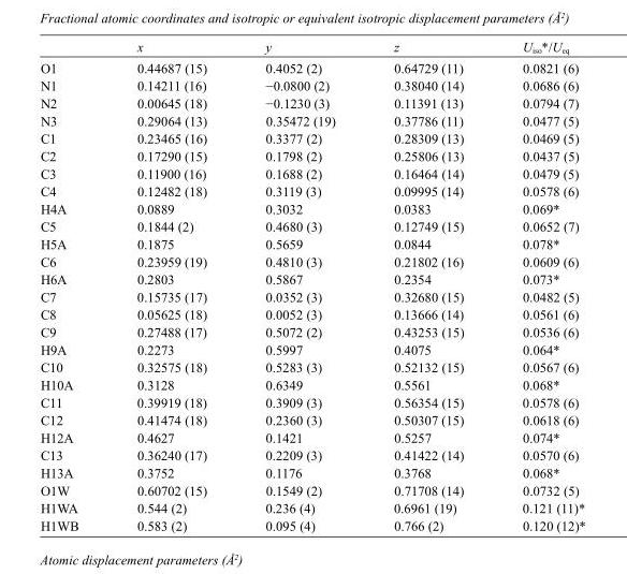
<table><thead><tr><td></td><td>x</td><td>y</td><td>z</td><td>U<sub>iso</sub>*/U<sub>eq</sub></td></tr></thead><tbody><tr><td>O1</td><td>0.44687 (15)</td><td>0.4052 (2)</td><td>0.64729 (11)</td><td>0.0821 (6)</td></tr><tr><td>N1</td><td>0.14211 (16)</td><td>−0.0800 (2)</td><td>0.38040 (14)</td><td>0.0686 (6)</td></tr><tr><td>N2</td><td>0.00645 (18)</td><td>−0.1230 (3)</td><td>0.11391 (13)</td><td>0.0794 (7)</td></tr><tr><td>N3</td><td>0.29064 (13)</td><td>0.35472 (19)</td><td>0.37786 (11)</td><td>0.0477 (5)</td></tr><tr><td>C1</td><td>0.23465 (16)</td><td>0.3377 (2)</td><td>0.28309 (13)</td><td>0.0469 (5)</td></tr><tr><td>C2</td><td>0.17290 (15)</td><td>0.1798 (2)</td><td>0.25806 (13)</td><td>0.0437 (5)</td></tr><tr><td>C3</td><td>0.11900 (16)</td><td>0.1688 (2)</td><td>0.16464 (14)</td><td>0.0479 (5)</td></tr><tr><td>C4</td><td>0.12482 (18)</td><td>0.3119 (3)</td><td>0.09995 (14)</td><td>0.0578 (6)</td></tr><tr><td>H4A</td><td>0.0889</td><td>0.3032</td><td>0.0383</td><td>0.069*</td></tr><tr><td>C5</td><td>0.1844 (2)</td><td>0.4680 (3)</td><td>0.12749 (15)</td><td>0.0652 (7)</td></tr><tr><td>H5A</td><td>0.1875</td><td>0.5659</td><td>0.0844</td><td>0.078*</td></tr><tr><td>C6</td><td>0.23959 (19)</td><td>0.4810 (3)</td><td>0.21802 (16)</td><td>0.0609 (6)</td></tr><tr><td>H6A</td><td>0.2803</td><td>0.5867</td><td>0.2354</td><td>0.073*</td></tr><tr><td>C7</td><td>0.15735 (17)</td><td>0.0352 (3)</td><td>0.32680 (15)</td><td>0.0482 (5)</td></tr><tr><td>C8</td><td>0.05625 (18)</td><td>0.0052 (3)</td><td>0.13666 (14)</td><td>0.0561 (6)</td></tr><tr><td>C9</td><td>0.27488 (17)</td><td>0.5072 (2)</td><td>0.43253 (15)</td><td>0.0536 (6)</td></tr><tr><td>H9A</td><td>0.2273</td><td>0.5997</td><td>0.4075</td><td>0.064*</td></tr><tr><td>C10</td><td>0.32575 (18)</td><td>0.5283 (3)</td><td>0.52132 (15)</td><td>0.0567 (6)</td></tr><tr><td>H10A</td><td>0.3128</td><td>0.6349</td><td>0.5561</td><td>0.068*</td></tr><tr><td>C11</td><td>0.39919 (18)</td><td>0.3909 (3)</td><td>0.56354 (15)</td><td>0.0578 (6)</td></tr><tr><td>C12</td><td>0.41474 (18)</td><td>0.2360 (3)</td><td>0.50307 (15)</td><td>0.0618 (6)</td></tr><tr><td>H12A</td><td>0.4627</td><td>0.1421</td><td>0.5257</td><td>0.074*</td></tr><tr><td>C13</td><td>0.36240 (17)</td><td>0.2209 (3)</td><td>0.41422 (14)</td><td>0.0570 (6)</td></tr><tr><td>H13A</td><td>0.3752</td><td>0.1176</td><td>0.3768</td><td>0.068*</td></tr><tr><td>O1W</td><td>0.60702 (15)</td><td>0.1549 (2)</td><td>0.71708 (14)</td><td>0.0732 (5)</td></tr><tr><td>H1WA</td><td>0.544 (2)</td><td>0.236 (4)</td><td>0.6961 (19)</td><td>0.121 (11)*</td></tr><tr><td>H1WB</td><td>0.583 (2)</td><td>0.095 (4)</td><td>0.766 (2)</td><td>0.120 (12)*</td></tr></tbody></table>